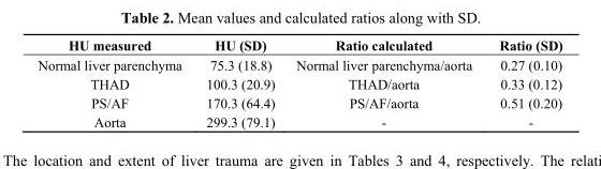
<table><thead><tr><td>HU measured</td><td>HU (SD)</td><td>Ratio calculated</td><td>Ratio (SD)</td></tr></thead><tbody><tr><td>Normal liver parenchyma</td><td>75.3 (18.8)</td><td>Normal liver parenchyma/aorta</td><td>0.27 (0.10)</td></tr><tr><td>THAD</td><td>100.3 (20.9)</td><td>THAD/aorta</td><td>0.33 (0.12)</td></tr><tr><td>PS/AF</td><td>170.3 (64.4)</td><td>PS/AF/aorta</td><td>0.51 (0.20)</td></tr><tr><td>Aorta</td><td>299.3 (79.1)</td><td>-</td><td>-</td></tr></tbody></table>